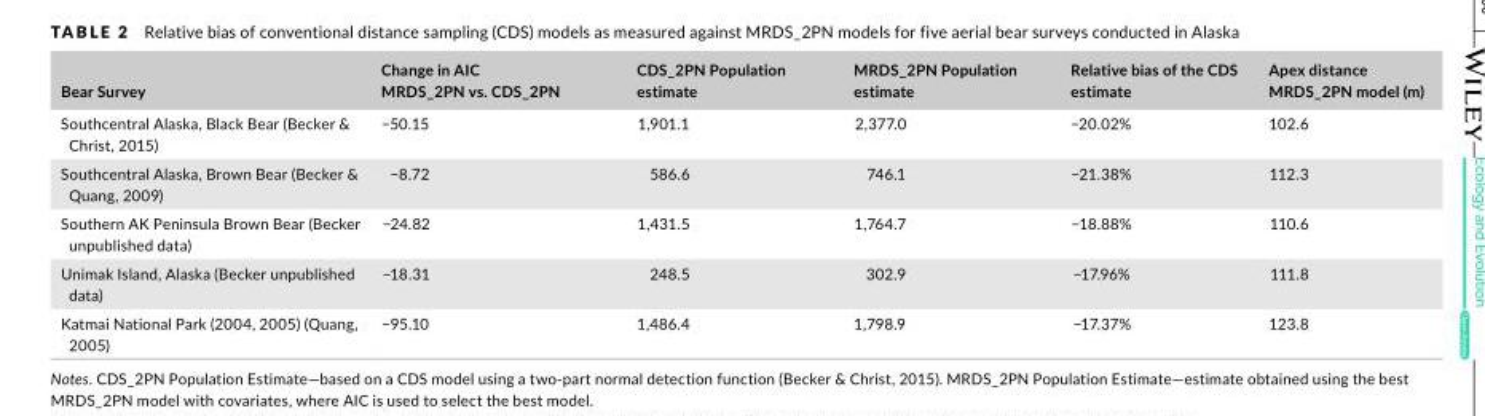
<table><thead><tr><td>Bear Survey</td><td>Change in AIC MRDS_2PN vs. CDS_2PN</td><td>CDS_2PN Population estimate</td><td>MRDS_2PN Population estimate</td><td>Relative bias of the CDS estimate</td><td>Apex distance MRDS_2PN model (m)</td></tr></thead><tbody><tr><td>Southcentral Alaska, Black Bear (Becker &amp; Christ, 2015)</td><td>−50.15</td><td>1,901.1</td><td>2,377.0</td><td>−20.02%</td><td>102.6</td></tr><tr><td>Southcentral Alaska, Brown Bear (Becker &amp; Quang, 2009)</td><td>−8.72</td><td>586.6</td><td>746.1</td><td>−21.38%</td><td>112.3</td></tr><tr><td>Southern AK Peninsula Brown Bear (Becker unpublished data)</td><td>−24.82</td><td>1,431.5</td><td>1,764.7</td><td>−18.88%</td><td>110.6</td></tr><tr><td>Unimak Island, Alaska (Becker unpublished data)</td><td>−18.31</td><td>248.5</td><td>302.9</td><td>−17.96%</td><td>111.8</td></tr><tr><td>Katmai National Park (2004, 2005) (Quang, 2005)</td><td>−95.10</td><td>1,486.4</td><td>1,798.9</td><td>−17.37%</td><td>123.8</td></tr></tbody></table>